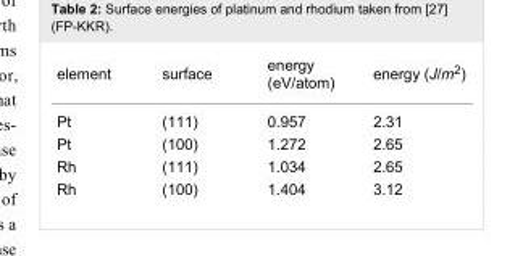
<table><tbody><tr><td>element</td><td>surface</td><td>energy (eV/atom)</td><td>energy (J/m<sup>2</sup>)</td></tr><tr><td>Pt</td><td>(111)</td><td>0.957</td><td>2.31</td></tr><tr><td>Pt</td><td>(100)</td><td>1.272</td><td>2.65</td></tr><tr><td>Rh</td><td>(111)</td><td>1.034</td><td>2.65</td></tr><tr><td>Rh</td><td>(100)</td><td>1.404</td><td>3.12</td></tr></tbody></table>